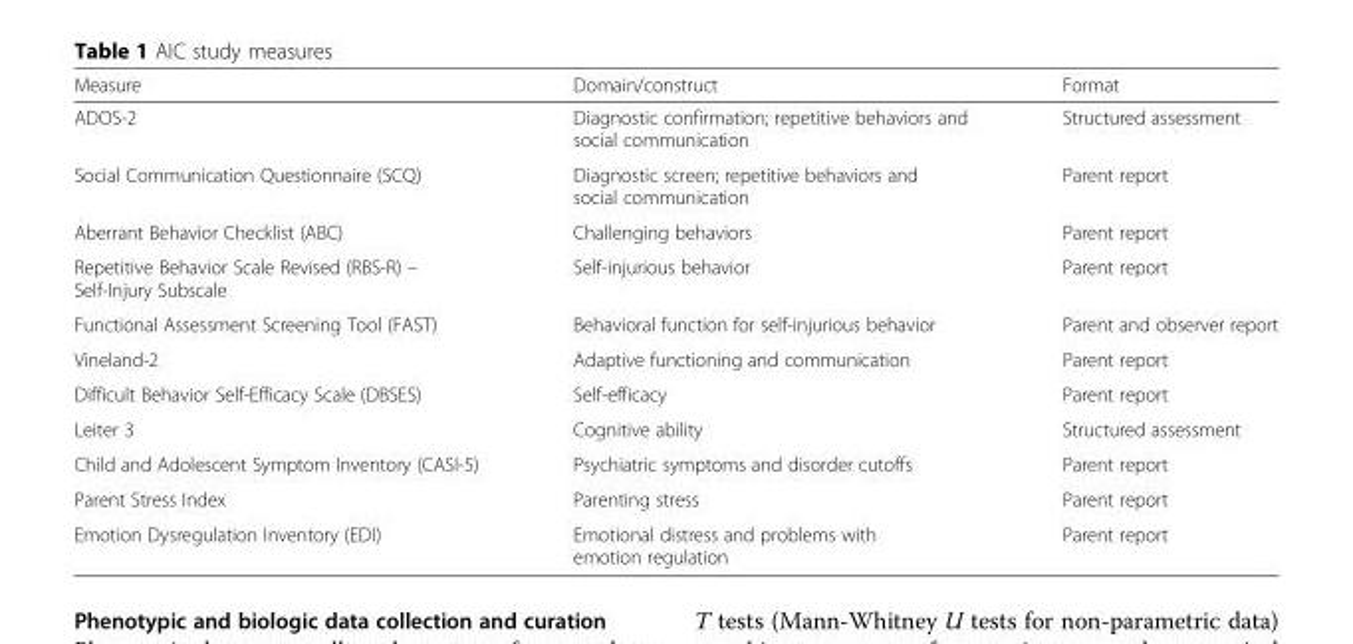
<table><thead><tr><td>Measure</td><td>Domain/construct</td><td>Format</td></tr></thead><tbody><tr><td>ADOS-2</td><td>Diagnostic confirmation; repetitive behaviors and social communication</td><td>Structured assessment</td></tr><tr><td>Social Communication Questionnaire (SCQ)</td><td>Diagnostic screen; repetitive behaviors and social communication</td><td>Parent report</td></tr><tr><td>Aberrant Behavior Checklist (ABC)</td><td>Challenging behaviors</td><td>Parent report</td></tr><tr><td>Repetitive Behavior Scale Revised (RBS-R) – Self-Injury Subscale</td><td>Self-injurious behavior</td><td>Parent report</td></tr><tr><td>Functional Assessment Screening Tool (FAST)</td><td>Behavioral function for self-injurious behavior</td><td>Parent and observer report</td></tr><tr><td>Vineland-2</td><td>Adaptive functioning and communication</td><td>Parent report</td></tr><tr><td>Difficult Behavior Self-Efficacy Scale (DBSES)</td><td>Self-efficacy</td><td>Parent report</td></tr><tr><td>Leiter 3</td><td>Cognitive ability</td><td>Structured assessment</td></tr><tr><td>Child and Adolescent Symptom Inventory (CASI-5)</td><td>Psychiatric symptoms and disorder cutoffs</td><td>Parent report</td></tr><tr><td>Parent Stress Index</td><td>Parenting stress</td><td>Parent report</td></tr><tr><td>Emotion Dysregulation Inventory (EDI)</td><td>Emotional distress and problems with emotion regulation</td><td>Parent report</td></tr></tbody></table>